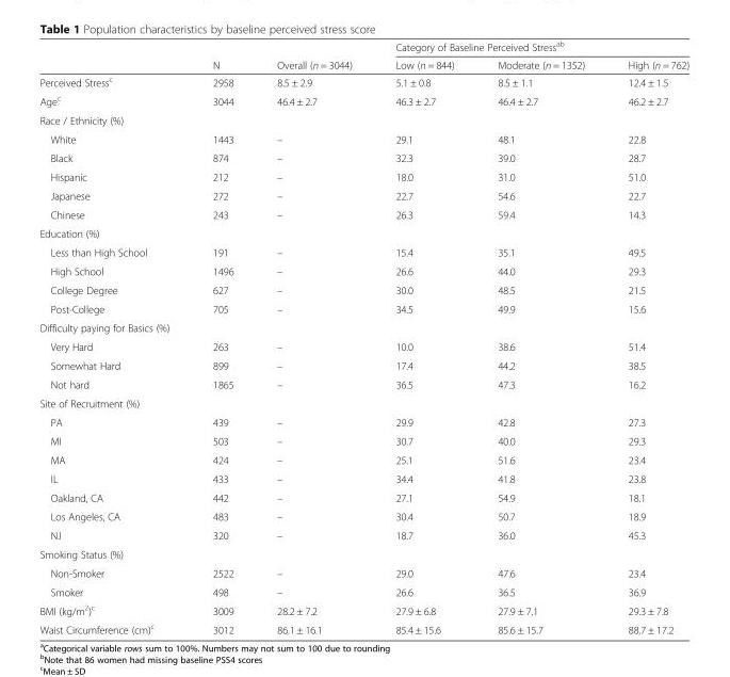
<table><thead><tr><td rowspan="2"></td><td rowspan="2">N</td><td rowspan="2">Overall (n = 3044)</td><td colspan="3">Category of Baseline Perceived Stress<sup>ab</sup></td></tr><tr><td>Low (n = 844)</td><td>Moderate (n = 1352)</td><td>High (n = 762)</td></tr></thead><tbody><tr><td>Perceived Stress<sup>c</sup></td><td>2958</td><td>8.5 ± 2.9</td><td>5.1 ± 0.8</td><td>8.5 ± 1.1</td><td>12.4 ± 1.5</td></tr><tr><td>Age<sup>c</sup></td><td>3044</td><td>46.4 ± 2.7</td><td>46.3 ± 2.7</td><td>46.4 ± 2.7</td><td>46.2 ± 2.7</td></tr><tr><td colspan="6">Race / Ethnicity (%)</td></tr><tr><td>White</td><td>1443</td><td>–</td><td>29.1</td><td>48.1</td><td>22.8</td></tr><tr><td>Black</td><td>874</td><td>–</td><td>32.3</td><td>39.0</td><td>28.7</td></tr><tr><td>Hispanic</td><td>212</td><td>–</td><td>18.0</td><td>31.0</td><td>51.0</td></tr><tr><td>Japanese</td><td>272</td><td>–</td><td>22.7</td><td>54.6</td><td>22.7</td></tr><tr><td>Chinese</td><td>243</td><td>–</td><td>26.3</td><td>59.4</td><td>14.3</td></tr><tr><td colspan="6">Education (%)</td></tr><tr><td>Less than High School</td><td>191</td><td>–</td><td>15.4</td><td>35.1</td><td>49.5</td></tr><tr><td>High School</td><td>1496</td><td>–</td><td>26.6</td><td>44.0</td><td>29.3</td></tr><tr><td>College Degree</td><td>627</td><td>–</td><td>30.0</td><td>48.5</td><td>21.5</td></tr><tr><td>Post-College</td><td>705</td><td>–</td><td>34.5</td><td>49.9</td><td>15.6</td></tr><tr><td colspan="6">Difficulty paying for Basics (%)</td></tr><tr><td>Very Hard</td><td>263</td><td>–</td><td>10.0</td><td>38.6</td><td>51.4</td></tr><tr><td>Somewhat Hard</td><td>899</td><td>–</td><td>17.4</td><td>44.2</td><td>38.5</td></tr><tr><td>Not hard</td><td>1865</td><td>–</td><td>36.5</td><td>47.3</td><td>16.2</td></tr><tr><td colspan="6">Site of Recruitment (%)</td></tr><tr><td>PA</td><td>439</td><td>–</td><td>29.9</td><td>42.8</td><td>27.3</td></tr><tr><td>MI</td><td>503</td><td>–</td><td>30.7</td><td>40.0</td><td>29.3</td></tr><tr><td>MA</td><td>424</td><td>–</td><td>25.1</td><td>51.6</td><td>23.4</td></tr><tr><td>IL</td><td>433</td><td>–</td><td>34.4</td><td>41.8</td><td>23.8</td></tr><tr><td>Oakland, CA</td><td>442</td><td>–</td><td>27.1</td><td>54.9</td><td>18.1</td></tr><tr><td>Los Angeles, CA</td><td>483</td><td>–</td><td>30.4</td><td>50.7</td><td>18.9</td></tr><tr><td>NJ</td><td>320</td><td>–</td><td>18.7</td><td>36.0</td><td>45.3</td></tr><tr><td colspan="6">Smoking Status (%)</td></tr><tr><td>Non-Smoker</td><td>2522</td><td>–</td><td>29.0</td><td>47.6</td><td>23.4</td></tr><tr><td>Smoker</td><td>498</td><td>–</td><td>26.6</td><td>36.5</td><td>36.9</td></tr><tr><td>BMI (kg/m<sup>2</sup>)<sup>c</sup></td><td>3009</td><td>28.2 ± 7.2</td><td>27.9 ± 6.8</td><td>27.9 ± 7.1</td><td>29.3 ± 7.8</td></tr><tr><td>Waist Circumference (cm)<sup>c</sup></td><td>3012</td><td>86.1 ± 16.1</td><td>85.4 ± 15.6</td><td>85.6 ± 15.7</td><td>88.7 ± 17.2</td></tr></tbody></table>